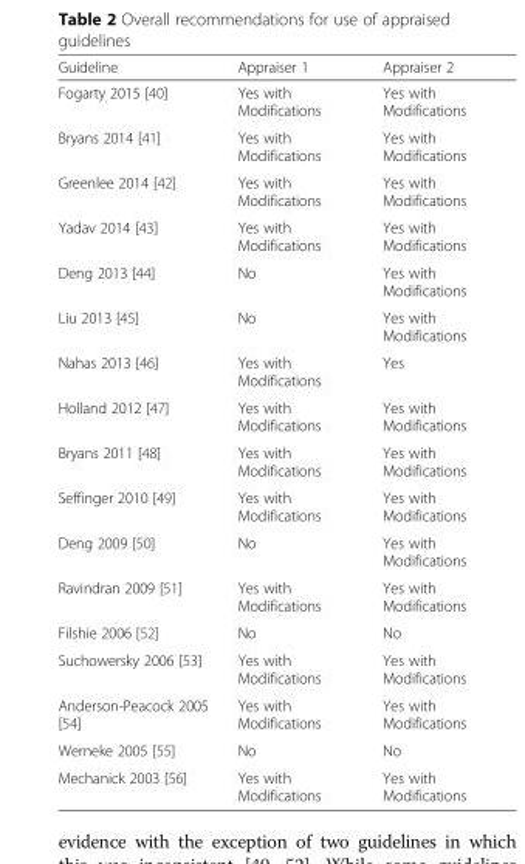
<table><thead><tr><td>Guideline</td><td>Appraiser 1</td><td>Appraiser 2</td></tr></thead><tbody><tr><td>Fogarty 2015 [40]</td><td>Yes with Modifications</td><td>Yes with Modifications</td></tr><tr><td>Bryans 2014 [41]</td><td>Yes with Modifications</td><td>Yes with Modifications</td></tr><tr><td>Greenlee 2014 [42]</td><td>Yes with Modifications</td><td>Yes with Modifications</td></tr><tr><td>Yadav 2014 [43]</td><td>Yes with Modifications</td><td>Yes with Modifications</td></tr><tr><td>Deng 2013 [44]</td><td>No</td><td>Yes with Modifications</td></tr><tr><td>Liu 2013 [45]</td><td>No</td><td>Yes with Modifications</td></tr><tr><td>Nahas 2013 [46]</td><td>Yes with Modifications</td><td>Yes</td></tr><tr><td>Holland 2012 [47]</td><td>Yes with Modifications</td><td>Yes with Modifications</td></tr><tr><td>Bryans 2011 [48]</td><td>Yes with Modifications</td><td>Yes with Modifications</td></tr><tr><td>Seffinger 2010 [49]</td><td>Yes with Modifications</td><td>Yes with Modifications</td></tr><tr><td>Deng 2009 [50]</td><td>No</td><td>Yes with Modifications</td></tr><tr><td>Ravindran 2009 [51]</td><td>Yes with Modifications</td><td>Yes with Modifications</td></tr><tr><td>Filshie 2006 [52]</td><td>No</td><td>No</td></tr><tr><td>Suchowersky 2006 [53]</td><td>Yes with Modifications</td><td>Yes with Modifications</td></tr><tr><td>Anderson-Peacock 2005 [54]</td><td>Yes with Modifications</td><td>Yes with Modifications</td></tr><tr><td>Werneke 2005 [55]</td><td>No</td><td>No</td></tr><tr><td>Mechanick 2003 [56]</td><td>Yes with Modifications</td><td>Yes with Modifications</td></tr></tbody></table>